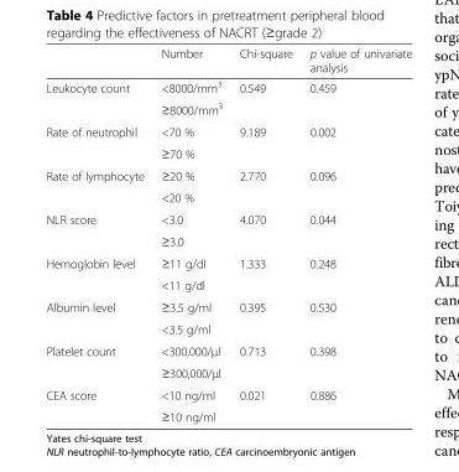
<table><thead><tr><td></td><td>Number</td><td>Chi-square</td><td>p value of univariate analysis</td></tr></thead><tbody><tr><td rowspan="2">Leukocyte count</td><td>&lt;8000/mm<sup>3</sup></td><td>0.549</td><td>0.459</td></tr><tr><td>≥8000/mm<sup>3</sup></td><td></td><td></td></tr><tr><td rowspan="2">Rate of neutrophil</td><td>&lt;70 %</td><td>9.189</td><td>0.002</td></tr><tr><td>≥70 %</td><td></td><td></td></tr><tr><td rowspan="2">Rate of lymphocyte</td><td>≥20 %</td><td>2.770</td><td>0.096</td></tr><tr><td>&lt;20 %</td><td></td><td></td></tr><tr><td rowspan="2">NLR score</td><td>&lt;3.0</td><td>4.070</td><td>0.044</td></tr><tr><td>≥3.0</td><td></td><td></td></tr><tr><td rowspan="2">Hemoglobin level</td><td>≥11 g/dl</td><td>1.333</td><td>0.248</td></tr><tr><td>&lt;11 g/dl</td><td></td><td></td></tr><tr><td rowspan="2">Albumin level</td><td>≥3.5 g/ml</td><td>0.395</td><td>0.530</td></tr><tr><td>&lt;3.5 g/ml</td><td></td><td></td></tr><tr><td rowspan="2">Platelet count</td><td>&lt;300,000/μl</td><td>0.713</td><td>0.398</td></tr><tr><td>≥300,000/μl</td><td></td><td></td></tr><tr><td rowspan="2">CEA score</td><td>&lt;10 ng/ml</td><td>0.021</td><td>0.886</td></tr><tr><td>≥10 ng/ml</td><td></td><td></td></tr></tbody></table>